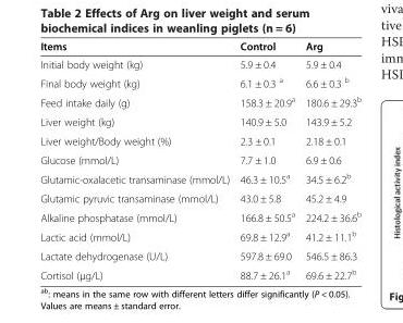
<table><thead><tr><td>Items</td><td>Control</td><td>Arg</td></tr></thead><tbody><tr><td>Initial body weight (kg)</td><td>5.9 ± 0.4</td><td>5.9 ± 0.4</td></tr><tr><td>Final body weight (kg)</td><td>6.1 ± 0.3 <sup>a</sup></td><td>6.6 ± 0.3 <sup>b</sup></td></tr><tr><td>Feed intake daily (g)</td><td>158.3 ± 20.9<sup>a</sup></td><td>180.6 ± 29.3<sup>b</sup></td></tr><tr><td>Liver weight (kg)</td><td>140.9 ± 5.0</td><td>143.9 ± 5.2</td></tr><tr><td>Liver weight/Body weight (%)</td><td>2.3 ± 0.1</td><td>2.18 ± 0.1</td></tr><tr><td>Glucose (mmol/L)</td><td>7.7 ± 1.0</td><td>6.9 ± 0.6</td></tr><tr><td>Glutamic-oxalacetic transaminase (mmol/L)</td><td>46.3 ± 10.5<sup>a</sup></td><td>34.5 ± 6.2<sup>b</sup></td></tr><tr><td>Glutamic pyruvic transaminase (mmol/L)</td><td>43.0 ± 5.8</td><td>45.2 ± 4.9</td></tr><tr><td>Alkaline phosphatase (mmol/L)</td><td>166.8 ± 50.5<sup>a</sup></td><td>224.2 ± 36.6<sup>b</sup></td></tr><tr><td>Lactic acid (mmol/L)</td><td>69.8 ± 12.9<sup>a</sup></td><td>41.2 ± 11.1<sup>b</sup></td></tr><tr><td>Lactate dehydrogenase (U/L)</td><td>597.8 ± 69.0</td><td>546.5 ± 86.3</td></tr><tr><td>Cortisol (μg/L)</td><td>88.7 ± 26.1<sup>a</sup></td><td>69.6 ± 22.7<sup>b</sup></td></tr></tbody></table>